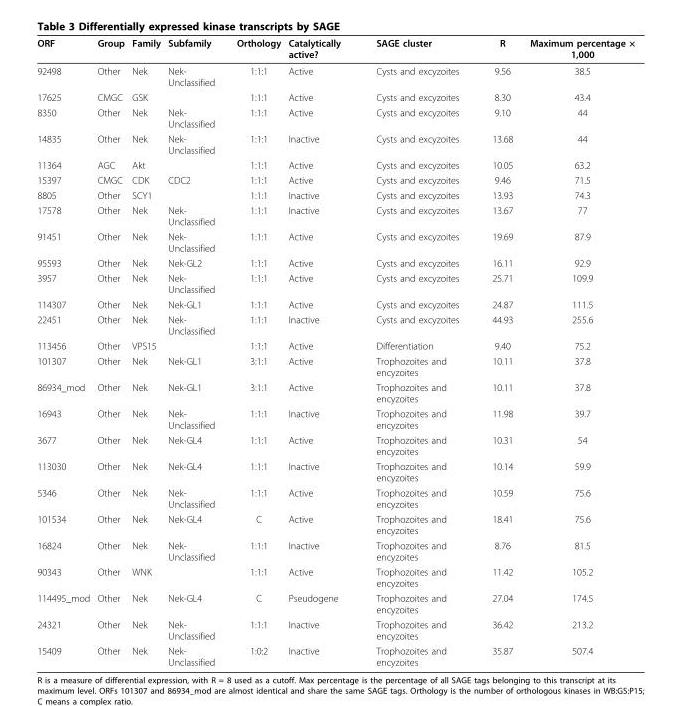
<table><thead><tr><td>ORF</td><td>Group</td><td>Family</td><td>Subfamily</td><td>Orthology</td><td>Catalytically active?</td><td>SAGE cluster</td><td>R</td><td>Maximum percentage × 1,000</td></tr></thead><tbody><tr><td>92498</td><td>Other</td><td>Nek</td><td>Nek- Unclassified</td><td>1:1:1</td><td>Active</td><td>Cysts and excyzoites</td><td>9.56</td><td>38.5</td></tr><tr><td>17625</td><td>CMGC</td><td>GSK</td><td></td><td>1:1:1</td><td>Active</td><td>Cysts and excyzoites</td><td>8.30</td><td>43.4</td></tr><tr><td>8350</td><td>Other</td><td>Nek</td><td>Nek- Unclassified</td><td>1:1:1</td><td>Active</td><td>Cysts and excyzoites</td><td>9.10</td><td>44</td></tr><tr><td>14835</td><td>Other</td><td>Nek</td><td>Nek- Unclassified</td><td>1:1:1</td><td>Inactive</td><td>Cysts and excyzoites</td><td>13.68</td><td>44</td></tr><tr><td>11364</td><td>AGC</td><td>Akt</td><td></td><td>1:1:1</td><td>Active</td><td>Cysts and excyzoites</td><td>10.05</td><td>63.2</td></tr><tr><td>15397</td><td>CMGC</td><td>CDK</td><td>CDC2</td><td>1:1:1</td><td>Active</td><td>Cysts and excyzoites</td><td>9.46</td><td>71.5</td></tr><tr><td>8805</td><td>Other</td><td>SCY1</td><td></td><td>1:1:1</td><td>Inactive</td><td>Cysts and excyzoites</td><td>13.93</td><td>74.3</td></tr><tr><td>17578</td><td>Other</td><td>Nek</td><td>Nek- Unclassified</td><td>1:1:1</td><td>Inactive</td><td>Cysts and excyzoites</td><td>13.67</td><td>77</td></tr><tr><td>91451</td><td>Other</td><td>Nek</td><td>Nek- Unclassified</td><td>1:1:1</td><td>Active</td><td>Cysts and excyzoites</td><td>19.69</td><td>87.9</td></tr><tr><td>95593</td><td>Other</td><td>Nek</td><td>Nek-GL2</td><td>1:1:1</td><td>Active</td><td>Cysts and excyzoites</td><td>16.11</td><td>92.9</td></tr><tr><td>3957</td><td>Other</td><td>Nek</td><td>Nek- Unclassified</td><td>1:1:1</td><td>Active</td><td>Cysts and excyzoites</td><td>25.71</td><td>109.9</td></tr><tr><td>114307</td><td>Other</td><td>Nek</td><td>Nek-GL1</td><td>1:1:1</td><td>Active</td><td>Cysts and excyzoites</td><td>24.87</td><td>111.5</td></tr><tr><td>22451</td><td>Other</td><td>Nek</td><td>Nek- Unclassified</td><td>1:1:1</td><td>Inactive</td><td>Cysts and excyzoites</td><td>44.93</td><td>255.6</td></tr><tr><td>113456</td><td>Other</td><td>VPS15</td><td></td><td>1:1:1</td><td>Active</td><td>Differentiation</td><td>9.40</td><td>75.2</td></tr><tr><td>101307</td><td>Other</td><td>Nek</td><td>Nek-GL1</td><td>3:1:1</td><td>Active</td><td>Trophozoites and encyzoites</td><td>10.11</td><td>37.8</td></tr><tr><td>86934_mod</td><td>Other</td><td>Nek</td><td>Nek-GL1</td><td>3:1:1</td><td>Active</td><td>Trophozoites and encyzoites</td><td>10.11</td><td>37.8</td></tr><tr><td>16943</td><td>Other</td><td>Nek</td><td>Nek- Unclassified</td><td>1:1:1</td><td>Inactive</td><td>Trophozoites and encyzoites</td><td>11.98</td><td>39.7</td></tr><tr><td>3677</td><td>Other</td><td>Nek</td><td>Nek-GL4</td><td>1:1:1</td><td>Active</td><td>Trophozoites and encyzoites</td><td>10.31</td><td>54</td></tr><tr><td>113030</td><td>Other</td><td>Nek</td><td>Nek-GL4</td><td>1:1:1</td><td>Inactive</td><td>Trophozoites and encyzoites</td><td>10.14</td><td>59.9</td></tr><tr><td>5346</td><td>Other</td><td>Nek</td><td>Nek- Unclassified</td><td>1:1:1</td><td>Active</td><td>Trophozoites and encyzoites</td><td>10.59</td><td>75.6</td></tr><tr><td>101534</td><td>Other</td><td>Nek</td><td>Nek-GL4</td><td>C</td><td>Active</td><td>Trophozoites and encyzoites</td><td>18.41</td><td>75.6</td></tr><tr><td>16824</td><td>Other</td><td>Nek</td><td>Nek- Unclassified</td><td>1:1:1</td><td>Inactive</td><td>Trophozoites and encyzoites</td><td>8.76</td><td>81.5</td></tr><tr><td>90343</td><td>Other</td><td>WNK</td><td></td><td>1:1:1</td><td>Active</td><td>Trophozoites and encyzoites</td><td>11.42</td><td>105.2</td></tr><tr><td>114495_mod</td><td>Other</td><td>Nek</td><td>Nek-GL4</td><td>C</td><td>Pseudogene</td><td>Trophozoites and encyzoites</td><td>27.04</td><td>174.5</td></tr><tr><td>24321</td><td>Other</td><td>Nek</td><td>Nek- Unclassified</td><td>1:1:1</td><td>Inactive</td><td>Trophozoites and encyzoites</td><td>36.42</td><td>213.2</td></tr><tr><td>15409</td><td>Other</td><td>Nek</td><td>Nek- Unclassified</td><td>1:0:2</td><td>Inactive</td><td>Trophozoites and encyzoites</td><td>35.87</td><td>507.4</td></tr></tbody></table>